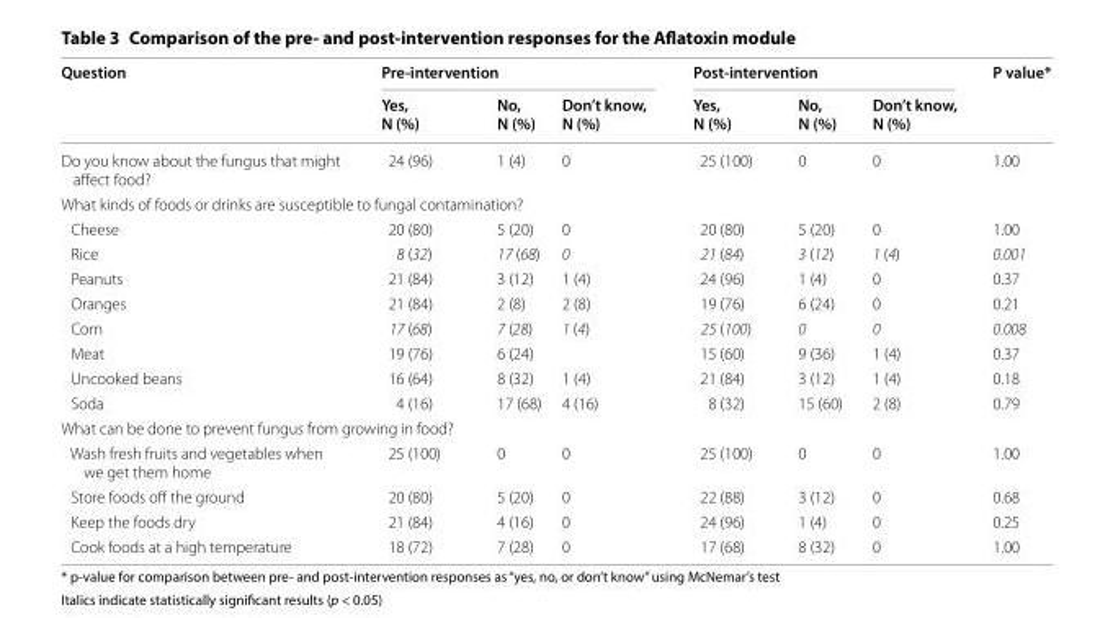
<table><thead><tr><td rowspan="2">Question</td><td colspan="3">Pre‑intervention</td><td colspan="3">Post‑intervention</td><td rowspan="2">P value*</td></tr><tr><td>Yes, N (%)</td><td>No, N (%)</td><td>Don’t know, N (%)</td><td>Yes, N (%)</td><td>No, N (%)</td><td>Don’t know, N (%)</td></tr></thead><tbody><tr><td>Do you know about the fungus that might affect food?</td><td>24 (96)</td><td>1 (4)</td><td>0</td><td>25 (100)</td><td>0</td><td>0</td><td>1.00</td></tr><tr><td colspan="8">What kinds of foods or drinks are susceptible to fungal contamination?</td></tr><tr><td>Cheese</td><td>20 (80)</td><td>5 (20)</td><td>0</td><td>20 (80)</td><td>5 (20)</td><td>0</td><td>1.00</td></tr><tr><td>Rice</td><td>8 (32)</td><td>17 (68)</td><td>0</td><td>21 (84)</td><td>3 (12)</td><td>1 (4)</td><td>0.001</td></tr><tr><td>Peanuts</td><td>21 (84)</td><td>3 (12)</td><td>1 (4)</td><td>24 (96)</td><td>1 (4)</td><td>0</td><td>0.37</td></tr><tr><td>Oranges</td><td>21 (84)</td><td>2 (8)</td><td>2 (8)</td><td>19 (76)</td><td>6 (24)</td><td>0</td><td>0.21</td></tr><tr><td>Corn</td><td>17 (68)</td><td>7 (28)</td><td>1 (4)</td><td>25 (100)</td><td>0</td><td>0</td><td>0.008</td></tr><tr><td>Meat</td><td>19 (76)</td><td>6 (24)</td><td></td><td>15 (60)</td><td>9 (36)</td><td>1 (4)</td><td>0.37</td></tr><tr><td>Uncooked beans</td><td>16 (64)</td><td>8 (32)</td><td>1 (4)</td><td>21 (84)</td><td>3 (12)</td><td>1 (4)</td><td>0.18</td></tr><tr><td>Soda</td><td>4 (16)</td><td>17 (68)</td><td>4 (16)</td><td>8 (32)</td><td>15 (60)</td><td>2 (8)</td><td>0.79</td></tr><tr><td colspan="8">What can be done to prevent fungus from growing in food?</td></tr><tr><td>Wash fresh fruits and vegetables when we get them home</td><td>25 (100)</td><td>0</td><td>0</td><td>25 (100)</td><td>0</td><td>0</td><td>1.00</td></tr><tr><td>Store foods off the ground</td><td>20 (80)</td><td>5 (20)</td><td>0</td><td>22 (88)</td><td>3 (12)</td><td>0</td><td>0.68</td></tr><tr><td>Keep the foods dry</td><td>21 (84)</td><td>4 (16)</td><td>0</td><td>24 (96)</td><td>1 (4)</td><td>0</td><td>0.25</td></tr><tr><td>Cook foods at a high temperature</td><td>18 (72)</td><td>7 (28)</td><td>0</td><td>17 (68)</td><td>8 (32)</td><td>0</td><td>1.00</td></tr></tbody></table>